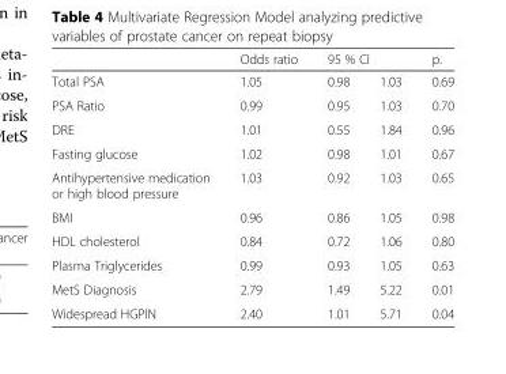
<table><thead><tr><td rowspan="2">Total PSA</td><td rowspan="2">Odds ratio 1.05</td><td colspan="2">95 % CI</td><td rowspan="2">p. 0.69</td></tr><tr><td>0.98</td><td>1.03</td></tr></thead><tbody><tr><td>PSA Ratio</td><td>0.99</td><td>0.95</td><td>1.03</td><td>0.70</td></tr><tr><td>DRE</td><td>1.01</td><td>0.55</td><td>1.84</td><td>0.96</td></tr><tr><td>Fasting glucose</td><td>1.02</td><td>0.98</td><td>1.01</td><td>0.67</td></tr><tr><td>Antihypertensive medication or high blood pressure</td><td>1.03</td><td>0.92</td><td>1.03</td><td>0.65</td></tr><tr><td>BMI</td><td>0.96</td><td>0.86</td><td>1.05</td><td>0.98</td></tr><tr><td>HDL cholesterol</td><td>0.84</td><td>0.72</td><td>1.06</td><td>0.80</td></tr><tr><td>Plasma Triglycerides</td><td>0.99</td><td>0.93</td><td>1.05</td><td>0.63</td></tr><tr><td>MetS Diagnosis</td><td>2.79</td><td>1.49</td><td>5.22</td><td>0.01</td></tr><tr><td>Widespread HGPIN</td><td>2.40</td><td>1.01</td><td>5.71</td><td>0.04</td></tr></tbody></table>